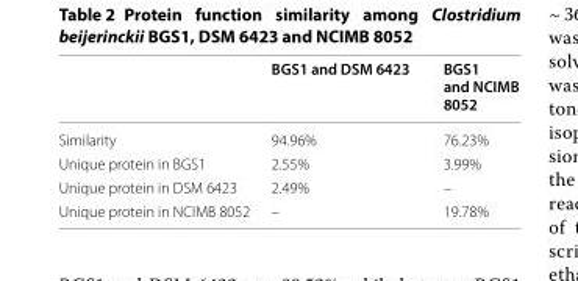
<table><thead><tr><td></td><td>BGS1 and DSM 6423</td><td>BGS1 and NCIMB 8052</td></tr></thead><tbody><tr><td>Similarity</td><td>94.96%</td><td>76.23%</td></tr><tr><td>Unique protein in BGS1</td><td>2.55%</td><td>3.99%</td></tr><tr><td>Unique protein in DSM 6423</td><td>2.49%</td><td>–</td></tr><tr><td>Unique protein in NCIMB 8052</td><td>–</td><td>19.78%</td></tr></tbody></table>